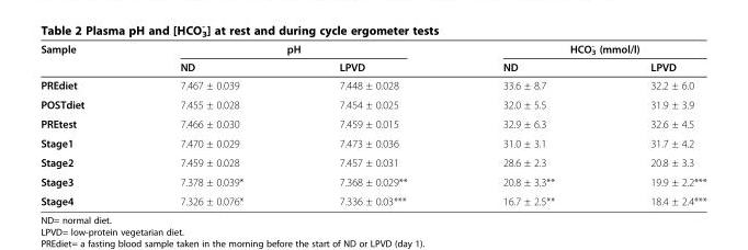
<table><thead><tr><td rowspan="2">Sample</td><td colspan="2">pH</td><td colspan="2">HCO<sub>3</sub> <sup>-</sup> (mmol/l)</td></tr><tr><td>ND</td><td>LPVD</td><td>ND</td><td>LPVD</td></tr></thead><tbody><tr><td>PREdiet</td><td>7.467 ± 0.039</td><td>7.448 ± 0.028</td><td>33.6 ± 8.7</td><td>32.2 ± 6.0</td></tr><tr><td>POSTdiet</td><td>7.455 ± 0.028</td><td>7.454 ± 0.025</td><td>32.0 ± 5.5</td><td>31.9 ± 3.9</td></tr><tr><td>PREtest</td><td>7.466 ± 0.030</td><td>7.459 ± 0.015</td><td>32.9 ± 6.3</td><td>32.6 ± 4.5</td></tr><tr><td>Stage1</td><td>7.470 ± 0.029</td><td>7.473 ± 0.036</td><td>31.0 ± 3.1</td><td>31.7 ± 4.2</td></tr><tr><td>Stage2</td><td>7.459 ± 0.028</td><td>7.457 ± 0.031</td><td>28.6 ± 2.3</td><td>20.8 ± 3.3</td></tr><tr><td>Stage3</td><td>7.378 ± 0.039*</td><td>7.368 ± 0.029**</td><td>20.8 ± 3.3**</td><td>19.9 ± 2.2***</td></tr><tr><td>Stage4</td><td>7.326 ± 0.076*</td><td>7.336 ± 0.03***</td><td>16.7 ± 2.5**</td><td>18.4 ± 2.4***</td></tr></tbody></table>